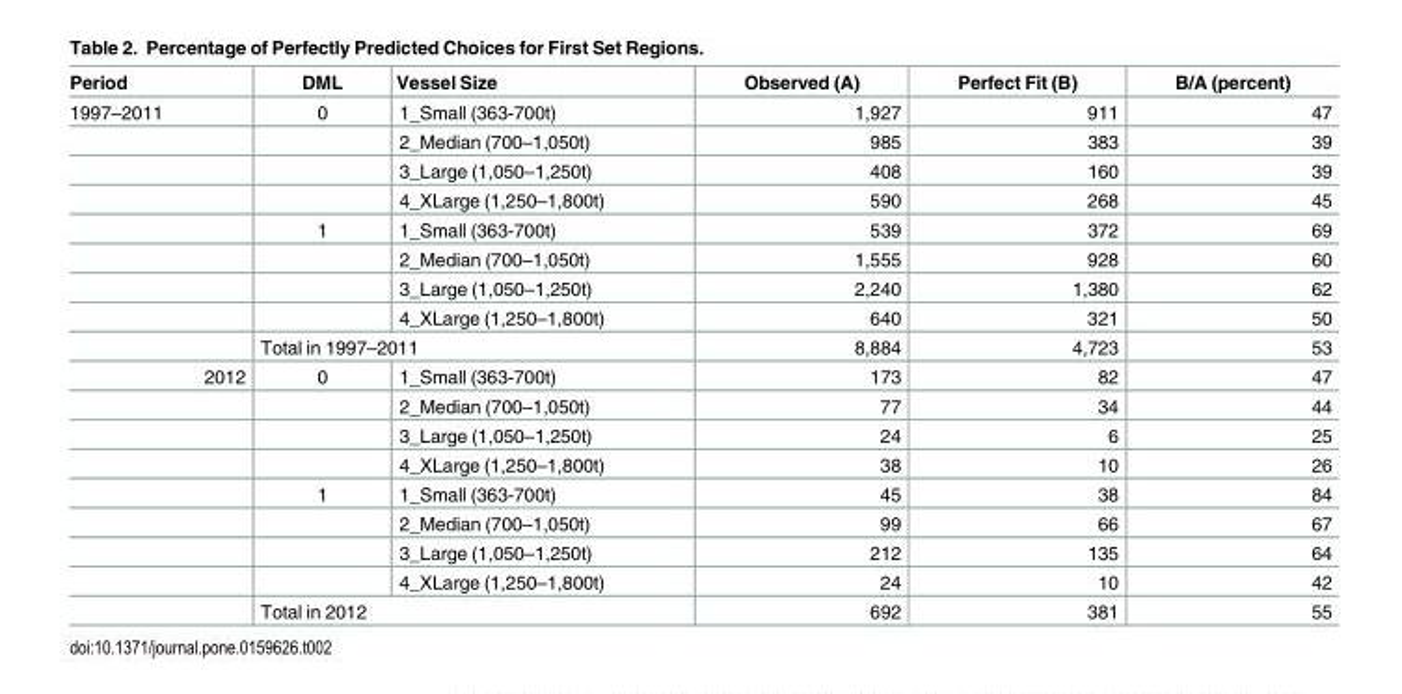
<table><thead><tr><td>Period</td><td>DML</td><td>Vessel Size</td><td>Observed (A)</td><td>Perfect Fit (B)</td><td>B/A (percent)</td></tr></thead><tbody><tr><td rowspan="9">1997–2011</td><td>0</td><td>1_Small (363-700t)</td><td>1,927</td><td>911</td><td>47</td></tr><tr><td></td><td>2_Median (700–1,050t)</td><td>985</td><td>383</td><td>39</td></tr><tr><td></td><td>3_Large (1,050–1,250t)</td><td>408</td><td>160</td><td>39</td></tr><tr><td></td><td>4_XLarge (1,250–1,800t)</td><td>590</td><td>268</td><td>45</td></tr><tr><td>1</td><td>1_Small (363-700t)</td><td>539</td><td>372</td><td>69</td></tr><tr><td></td><td>2_Median (700–1,050t)</td><td>1,555</td><td>928</td><td>60</td></tr><tr><td></td><td>3_Large (1,050–1,250t)</td><td>2,240</td><td>1,380</td><td>62</td></tr><tr><td></td><td>4_XLarge (1,250–1,800t)</td><td>640</td><td>321</td><td>50</td></tr><tr><td colspan="2">Total in 1997–2011</td><td>8,884</td><td>4,723</td><td>53</td></tr><tr><td rowspan="9">2012</td><td>0</td><td>1_Small (363-700t)</td><td>173</td><td>82</td><td>47</td></tr><tr><td></td><td>2_Median (700–1,050t)</td><td>77</td><td>34</td><td>44</td></tr><tr><td></td><td>3_Large (1,050–1,250t)</td><td>24</td><td>6</td><td>25</td></tr><tr><td></td><td>4_XLarge (1,250–1,800t)</td><td>38</td><td>10</td><td>26</td></tr><tr><td>1</td><td>1_Small (363-700t)</td><td>45</td><td>38</td><td>84</td></tr><tr><td></td><td>2_Median (700–1,050t)</td><td>99</td><td>66</td><td>67</td></tr><tr><td></td><td>3_Large (1,050–1,250t)</td><td>212</td><td>135</td><td>64</td></tr><tr><td></td><td>4_XLarge (1,250–1,800t)</td><td>24</td><td>10</td><td>42</td></tr><tr><td colspan="2">Total in 2012</td><td>692</td><td>381</td><td>55</td></tr></tbody></table>